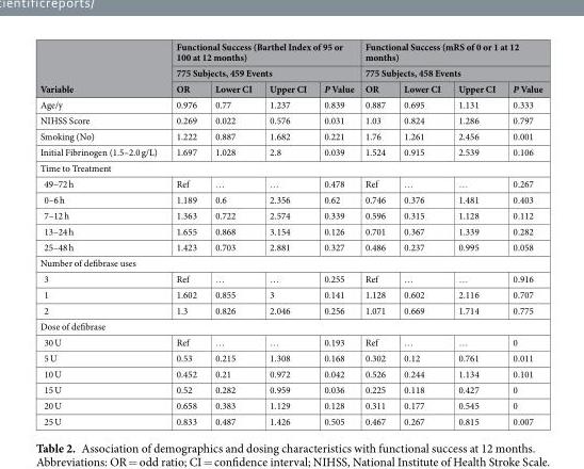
<table><thead><tr><td rowspan="3">Variable</td><td rowspan="2" colspan="4">Functional Success (Barthel Index of 95 or 100 at 12 months) 775 Subjects, 459 Events</td><td rowspan="2" colspan="4">Functional Success (mRS of 0 or 1 at 12 months) 775 Subjects, 458 Events</td></tr><tr></tr><tr><td>OR</td><td>Lower CI</td><td>Upper CI</td><td>P Value</td><td>OR</td><td>Lower CI</td><td>Upper CI</td><td>P Value</td></tr></thead><tbody><tr><td>Age/y</td><td>0.976</td><td>0.77</td><td>1.237</td><td>0.839</td><td>0.887</td><td>0.695</td><td>1.131</td><td>0.333</td></tr><tr><td>NIHSS Score</td><td>0.269</td><td>0.022</td><td>0.576</td><td>0.031</td><td>1.03</td><td>0.824</td><td>1.286</td><td>0.797</td></tr><tr><td>Smoking (No)</td><td>1.222</td><td>0.887</td><td>1.682</td><td>0.221</td><td>1.76</td><td>1.261</td><td>2.456</td><td>0.001</td></tr><tr><td>Initial Fibrinogen (1.5–2.0 g/L)</td><td>1.697</td><td>1.028</td><td>2.8</td><td>0.039</td><td>1.524</td><td>0.915</td><td>2.539</td><td>0.106</td></tr><tr><td colspan="9">Time to Treatment</td></tr><tr><td>49–72 h</td><td>Ref</td><td>…</td><td>…</td><td>0.478</td><td>Ref</td><td>…</td><td>…</td><td>0.267</td></tr><tr><td>0–6 h</td><td>1.189</td><td>0.6</td><td>2.356</td><td>0.62</td><td>0.746</td><td>0.376</td><td>1.481</td><td>0.403</td></tr><tr><td>7–12 h</td><td>1.363</td><td>0.722</td><td>2.574</td><td>0.339</td><td>0.596</td><td>0.315</td><td>1.128</td><td>0.112</td></tr><tr><td>13–24 h</td><td>1.655</td><td>0.868</td><td>3.154</td><td>0.126</td><td>0.701</td><td>0.367</td><td>1.339</td><td>0.282</td></tr><tr><td>25–48 h</td><td>1.423</td><td>0.703</td><td>2.881</td><td>0.327</td><td>0.486</td><td>0.237</td><td>0.995</td><td>0.058</td></tr><tr><td colspan="9">Number of defibrase uses</td></tr><tr><td>3</td><td>Ref</td><td>…</td><td>…</td><td>0.255</td><td>Ref</td><td>…</td><td>…</td><td>0.916</td></tr><tr><td>1</td><td>1.602</td><td>0.855</td><td>3</td><td>0.141</td><td>1.128</td><td>0.602</td><td>2.116</td><td>0.707</td></tr><tr><td>2</td><td>1.3</td><td>0.826</td><td>2.046</td><td>0.256</td><td>1.071</td><td>0.669</td><td>1.714</td><td>0.775</td></tr><tr><td colspan="9">Dose of defibrase</td></tr><tr><td>30 U</td><td>Ref</td><td>…</td><td>…</td><td>0.193</td><td>Ref</td><td>…</td><td>…</td><td>0</td></tr><tr><td>5 U</td><td>0.53</td><td>0.215</td><td>1.308</td><td>0.168</td><td>0.302</td><td>0.12</td><td>0.761</td><td>0.011</td></tr><tr><td>10 U</td><td>0.452</td><td>0.21</td><td>0.972</td><td>0.042</td><td>0.526</td><td>0.244</td><td>1.134</td><td>0.101</td></tr><tr><td>15 U</td><td>0.52</td><td>0.282</td><td>0.959</td><td>0.036</td><td>0.225</td><td>0.118</td><td>0.427</td><td>0</td></tr><tr><td>20 U</td><td>0.658</td><td>0.383</td><td>1.129</td><td>0.128</td><td>0.311</td><td>0.177</td><td>0.545</td><td>0</td></tr><tr><td>25 U</td><td>0.833</td><td>0.487</td><td>1.426</td><td>0.505</td><td>0.467</td><td>0.267</td><td>0.815</td><td>0.007</td></tr></tbody></table>